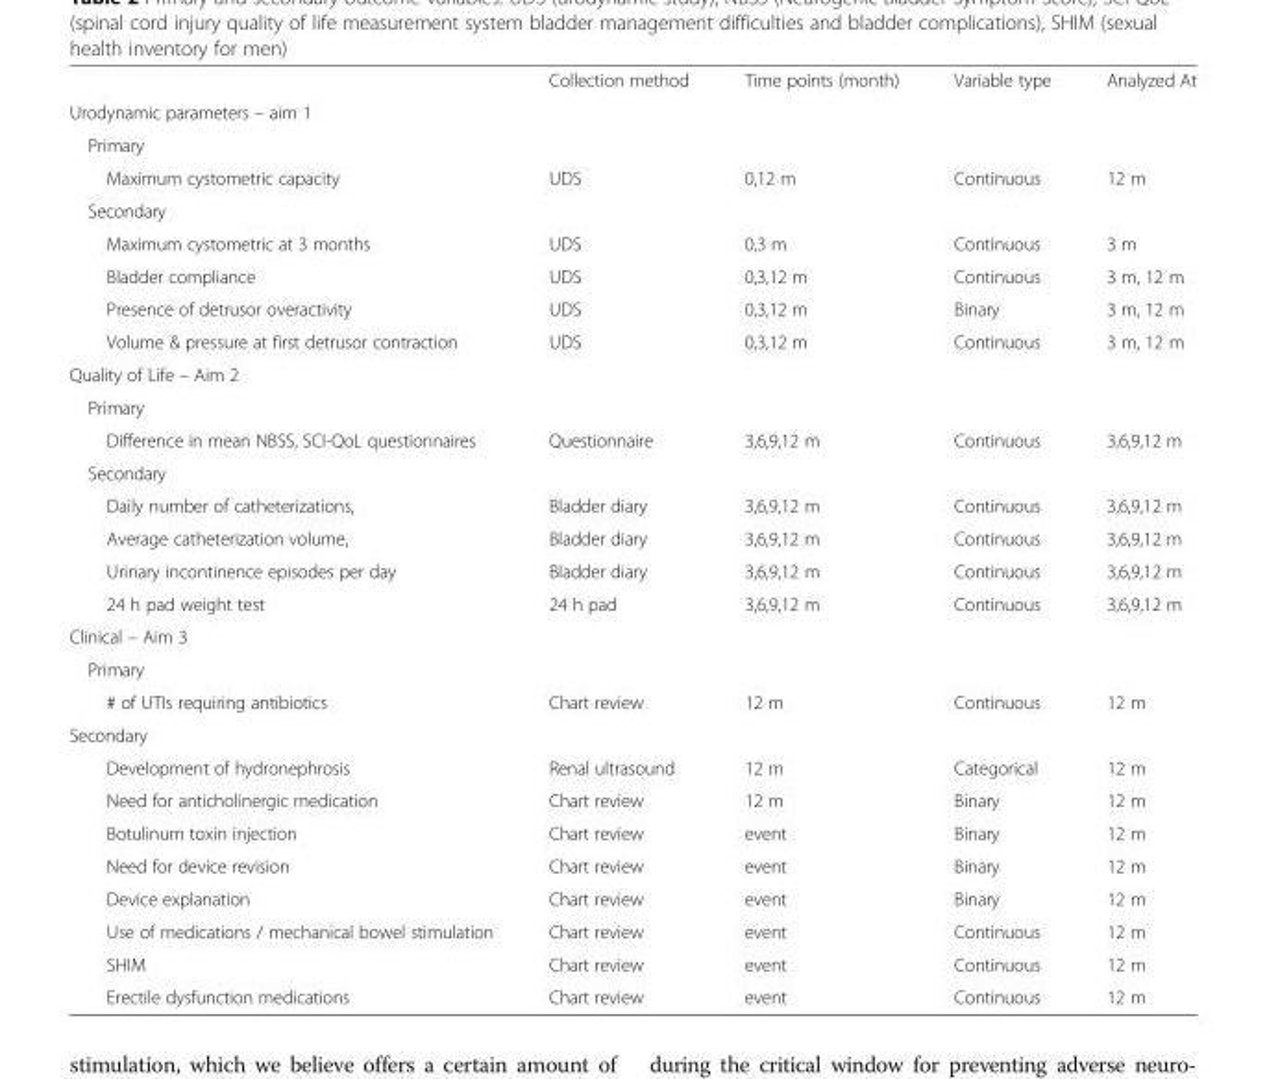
<table><thead><tr><td></td><td>Collection method</td><td>Time points (month)</td><td>Variable type</td><td>Analyzed At</td></tr></thead><tbody><tr><td colspan="5">Urodynamic parameters – aim 1</td></tr><tr><td colspan="5">Primary</td></tr><tr><td>Maximum cystometric capacity</td><td>UDS</td><td>0,12 m</td><td>Continuous</td><td>12 m</td></tr><tr><td colspan="5">Secondary</td></tr><tr><td>Maximum cystometric at 3 months</td><td>UDS</td><td>0,3 m</td><td>Continuous</td><td>3 m</td></tr><tr><td>Bladder compliance</td><td>UDS</td><td>0,3,12 m</td><td>Continuous</td><td>3 m, 12 m</td></tr><tr><td>Presence of detrusor overactivity</td><td>UDS</td><td>0,3,12 m</td><td>Binary</td><td>3 m, 12 m</td></tr><tr><td>Volume &amp; pressure at first detrusor contraction</td><td>UDS</td><td>0,3,12 m</td><td>Continuous</td><td>3 m, 12 m</td></tr><tr><td colspan="5">Quality of Life – Aim 2</td></tr><tr><td colspan="5">Primary</td></tr><tr><td>Difference in mean NBSS, SCI-QoL questionnaires</td><td>Questionnaire</td><td>3,6,9,12 m</td><td>Continuous</td><td>3,6,9,12 m</td></tr><tr><td colspan="5">Secondary</td></tr><tr><td>Daily number of catheterizations,</td><td>Bladder diary</td><td>3,6,9,12 m</td><td>Continuous</td><td>3,6,9,12 m</td></tr><tr><td>Average catheterization volume,</td><td>Bladder diary</td><td>3,6,9,12 m</td><td>Continuous</td><td>3,6,9,12 m</td></tr><tr><td>Urinary incontinence episodes per day</td><td>Bladder diary</td><td>3,6,9,12 m</td><td>Continuous</td><td>3,6,9,12 m</td></tr><tr><td>24 h pad weight test</td><td>24 h pad</td><td>3,6,9,12 m</td><td>Continuous</td><td>3,6,9,12 m</td></tr><tr><td colspan="5">Clinical – Aim 3</td></tr><tr><td colspan="5">Primary</td></tr><tr><td># of UTIs requiring antibiotics</td><td>Chart review</td><td>12 m</td><td>Continuous</td><td>12 m</td></tr><tr><td colspan="5">Secondary</td></tr><tr><td>Development of hydronephrosis</td><td>Renal ultrasound</td><td>12 m</td><td>Categorical</td><td>12 m</td></tr><tr><td>Need for anticholinergic medication</td><td>Chart review</td><td>12 m</td><td>Binary</td><td>12 m</td></tr><tr><td>Botulinum toxin injection</td><td>Chart review</td><td>event</td><td>Binary</td><td>12 m</td></tr><tr><td>Need for device revision</td><td>Chart review</td><td>event</td><td>Binary</td><td>12 m</td></tr><tr><td>Device explanation</td><td>Chart review</td><td>event</td><td>Binary</td><td>12 m</td></tr><tr><td>Use of medications / mechanical bowel stimulation</td><td>Chart review</td><td>event</td><td>Continuous</td><td>12 m</td></tr><tr><td>SHIM</td><td>Chart review</td><td>event</td><td>Continuous</td><td>12 m</td></tr><tr><td>Erectile dysfunction medications</td><td>Chart review</td><td>event</td><td>Continuous</td><td>12 m</td></tr></tbody></table>